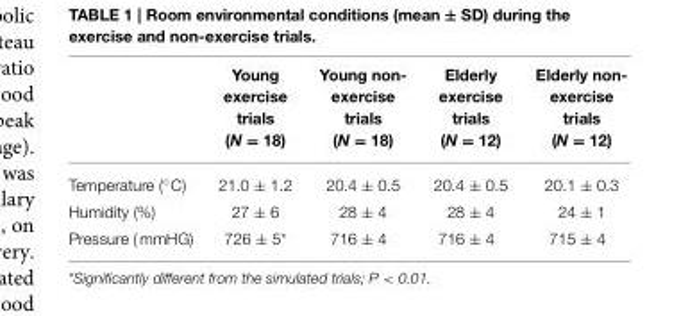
<table><thead><tr><td></td><td>Young exercise trials (N = 18)</td><td>Young non- exercise trials (N = 18)</td><td>Elderly exercise trials (N = 12)</td><td>Elderly non- exercise trials (N = 12)</td></tr></thead><tbody><tr><td>Temperature (◦C)</td><td>21.0 ± 1.2</td><td>20.4 ± 0.5</td><td>20.4 ± 0.5</td><td>20.1 ± 0.3</td></tr><tr><td>Humidity (%)</td><td>27 ± 6</td><td>28 ± 4</td><td>28 ± 4</td><td>24 ± 1</td></tr><tr><td>Pressure ( mmHG)</td><td>726 ± 5*</td><td>716 ± 4</td><td>716 ± 4</td><td>715 ± 4</td></tr></tbody></table>